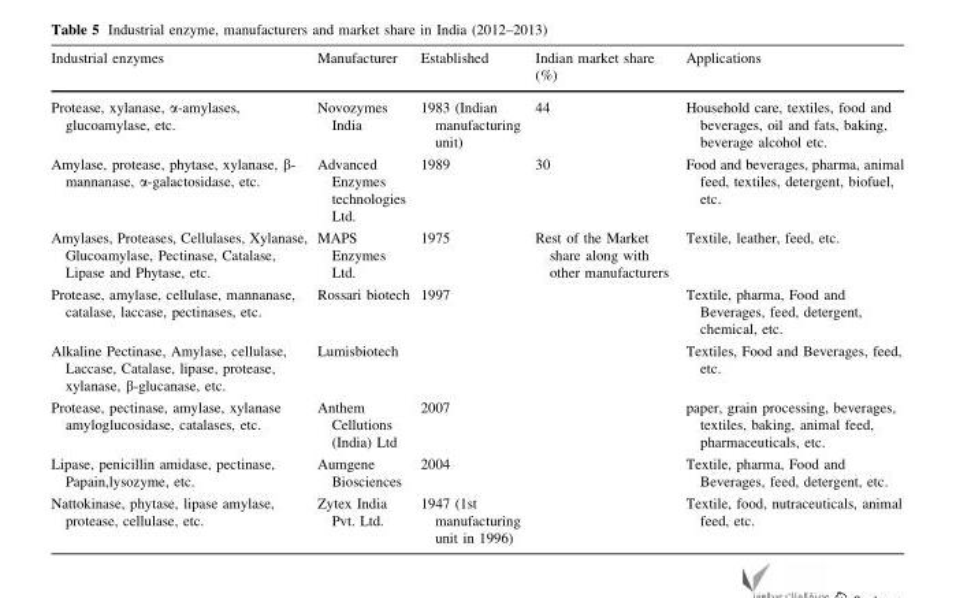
<table><thead><tr><td>Industrial enzymes</td><td>Manufacturer</td><td>Established</td><td>Indian market share (%)</td><td>Applications</td></tr></thead><tbody><tr><td>Protease, xylanase, α-amylases, glucoamylase, etc.</td><td>Novozymes India</td><td>1983 (Indian manufacturing unit)</td><td>44</td><td>Household care, textiles, food and beverages, oil and fats, baking, beverage alcohol etc.</td></tr><tr><td>Amylase, protease, phytase, xylanase, β- mannanase, α-galactosidase, etc.</td><td>Advanced Enzymes technologies Ltd.</td><td>1989</td><td>30</td><td>Food and beverages, pharma, animal feed, textiles, detergent, biofuel, etc.</td></tr><tr><td>Amylases, Proteases, Cellulases, Xylanase, Glucoamylase, Pectinase, Catalase, Lipase and Phytase, etc.</td><td>MAPS Enzymes Ltd.</td><td>1975</td><td rowspan="6">Rest of the Market share along with other manufacturers</td><td>Textile, leather, feed, etc.</td></tr><tr><td>Protease, amylase, cellulase, mannanase, catalase, laccase, pectinases, etc.</td><td>Rossari biotech</td><td>1997</td><td>Textile, pharma, Food and Beverages, feed, detergent, chemical, etc.</td></tr><tr><td>Alkaline Pectinase, Amylase, cellulase, Laccase, Catalase, lipase, protease, xylanase, β-glucanase, etc.</td><td>Lumisbiotech</td><td></td><td>Textiles, Food and Beverages, feed, etc.</td></tr><tr><td>Protease, pectinase, amylase, xylanase amyloglucosidase, catalases, etc.</td><td>Anthem Cellutions (India) Ltd</td><td>2007</td><td>paper, grain processing, beverages, textiles, baking, animal feed, pharmaceuticals, etc.</td></tr><tr><td>Lipase, penicillin amidase, pectinase, Papain,lysozyme, etc.</td><td>Aumgene Biosciences</td><td>2004</td><td>Textile, pharma, Food and Beverages, feed, detergent, etc.</td></tr><tr><td>Nattokinase, phytase, lipase amylase, protease, cellulase, etc.</td><td>Zytex India Pvt. Ltd.</td><td>1947 (1st manufacturing unit in 1996)</td><td>Textile, food, nutraceuticals, animal feed, etc.</td></tr></tbody></table>